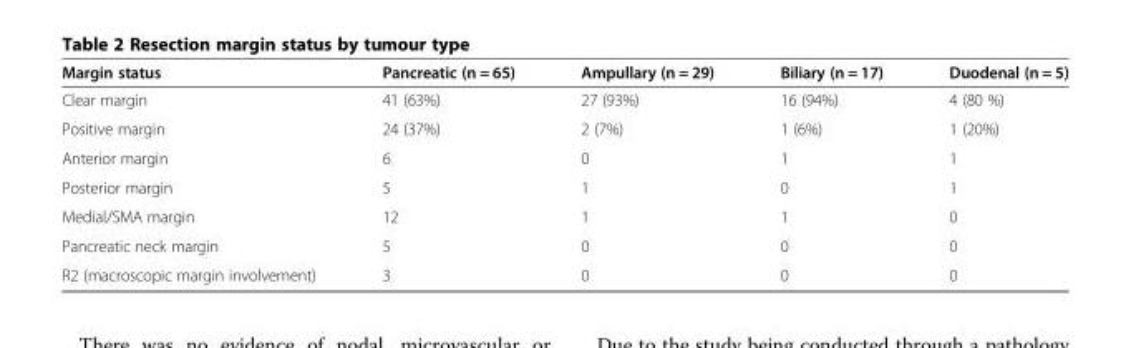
<table><thead><tr><td>Margin status</td><td>Pancreatic (n = 65)</td><td>Ampullary (n = 29)</td><td>Biliary (n = 17)</td><td>Duodenal (n = 5)</td></tr></thead><tbody><tr><td>Clear margin</td><td>41 (63%)</td><td>27 (93%)</td><td>16 (94%)</td><td>4 (80 %)</td></tr><tr><td>Positive margin</td><td>24 (37%)</td><td>2 (7%)</td><td>1 (6%)</td><td>1 (20%)</td></tr><tr><td>Anterior margin</td><td>6</td><td>0</td><td>1</td><td>1</td></tr><tr><td>Posterior margin</td><td>5</td><td>1</td><td>0</td><td>1</td></tr><tr><td>Medial/SMA margin</td><td>12</td><td>1</td><td>1</td><td>0</td></tr><tr><td>Pancreatic neck margin</td><td>5</td><td>0</td><td>0</td><td>0</td></tr><tr><td>R2 (macroscopic margin involvement)</td><td>3</td><td>0</td><td>0</td><td>0</td></tr></tbody></table>